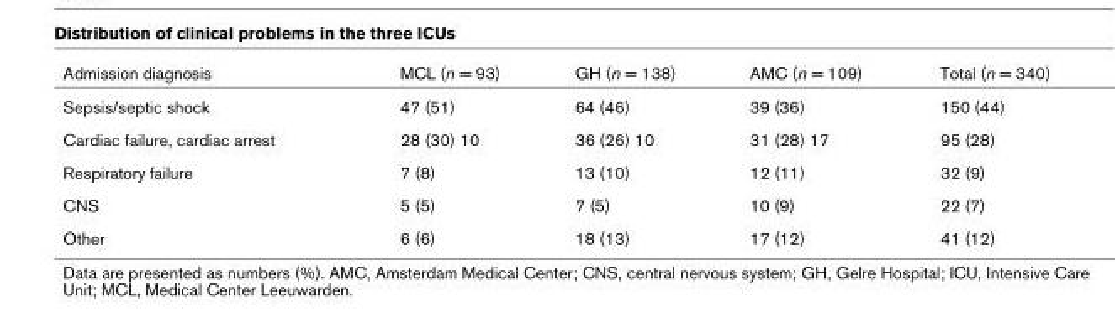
<table><thead><tr><td>Admission diagnosis</td><td>MCL (n = 93)</td><td>GH (n = 138)</td><td>AMC (n = 109)</td><td>Total (n = 340)</td></tr></thead><tbody><tr><td>Sepsis/septic shock</td><td>47 (51)</td><td>64 (46)</td><td>39 (36)</td><td>150 (44)</td></tr><tr><td>Cardiac failure, cardiac arrest</td><td>28 (30) 10</td><td>36 (26) 10</td><td>31 (28) 17</td><td>95 (28)</td></tr><tr><td>Respiratory failure</td><td>7 (8)</td><td>13 (10)</td><td>12 (11)</td><td>32 (9)</td></tr><tr><td>CNS</td><td>5 (5)</td><td>7 (5)</td><td>10 (9)</td><td>22 (7)</td></tr><tr><td>Other</td><td>6 (6)</td><td>18 (13)</td><td>17 (12)</td><td>41 (12)</td></tr></tbody></table>